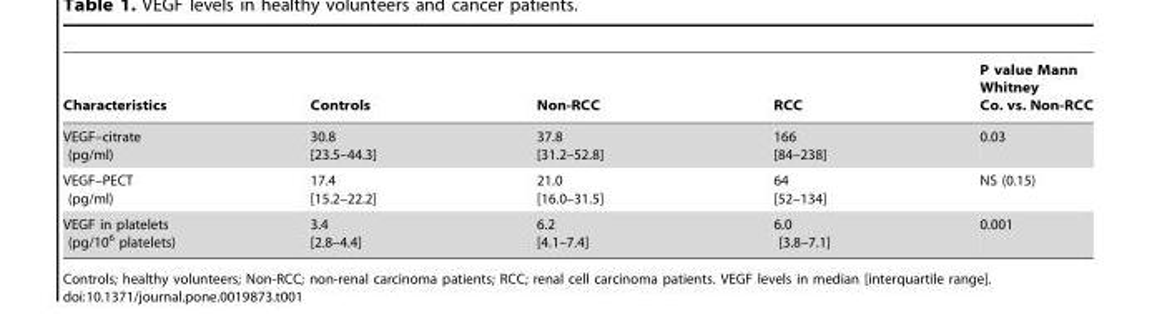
<table><thead><tr><td>Characteristics</td><td>Controls</td><td>Non-RCC</td><td>RCC</td><td>P value Mann Whitney Co. vs. Non-RCC</td></tr></thead><tbody><tr><td>VEGF–citrate (pg/ml)</td><td>30.8 [23.5–44.3]</td><td>37.8 [31.2–52.8]</td><td>166 [84–238]</td><td>0.03</td></tr><tr><td>VEGF–PECT (pg/ml)</td><td>17.4 [15.2–22.2]</td><td>21.0 [16.0–31.5]</td><td>64 [52–134]</td><td>NS (0.15)</td></tr><tr><td>VEGF in platelets (pg/10<sup>6</sup> platelets)</td><td>3.4 [2.8–4.4]</td><td>6.2 [4.1–7.4]</td><td>6.0 [3.8–7.1]</td><td>0.001</td></tr></tbody></table>